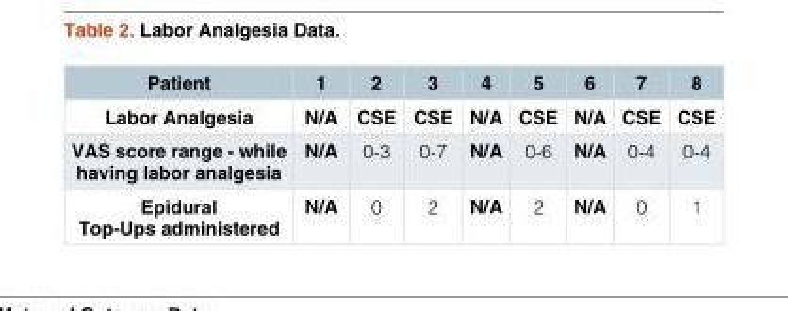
<table><thead><tr><td>Patient</td><td>1</td><td>2</td><td>3</td><td>4</td><td>5</td><td>6</td><td>7</td><td>8</td></tr></thead><tbody><tr><td>Labor Analgesia</td><td>N/A</td><td>CSE</td><td>CSE</td><td>N/A</td><td>CSE</td><td>N/A</td><td>CSE</td><td>CSE</td></tr><tr><td>VAS score range - while having labor analgesia</td><td>N/A</td><td>0-3</td><td>0-7</td><td>N/A</td><td>0-6</td><td>N/A</td><td>0-4</td><td>0-4</td></tr><tr><td>Epidural Top-Ups administered</td><td>N/A</td><td>0</td><td>2</td><td>N/A</td><td>2</td><td>N/A</td><td>0</td><td>1</td></tr></tbody></table>